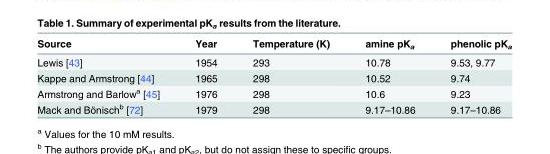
<table><thead><tr><td>Source</td><td>Year</td><td>Temperature (K)</td><td>amine pK<sub>a</sub></td><td>phenolic pK<sub>a</sub></td></tr></thead><tbody><tr><td>Lewis [43]</td><td>1954</td><td>293</td><td>10.78</td><td>9.53, 9.77</td></tr><tr><td>Kappe and Armstrong [44]</td><td>1965</td><td>298</td><td>10.52</td><td>9.74</td></tr><tr><td>Armstrong and Barlow<sup>a</sup> [45]</td><td>1976</td><td>298</td><td>10.6</td><td>9.23</td></tr><tr><td>Mack and Bönisch<sup>b</sup> [72]</td><td>1979</td><td>298</td><td>9.17–10.86</td><td>9.17–10.86</td></tr></tbody></table>